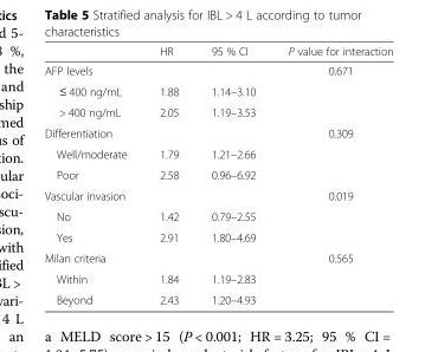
<table><thead><tr><td></td><td>HR</td><td>95 % CI</td><td>P value for interaction</td></tr></thead><tbody><tr><td>AFP levels</td><td></td><td></td><td>0.671</td></tr><tr><td>≤ 400 ng/mL</td><td>1.88</td><td>1.14–3.10</td><td></td></tr><tr><td>&gt; 400 ng/mL</td><td>2.05</td><td>1.19–3.53</td><td></td></tr><tr><td>Differentiation</td><td></td><td></td><td>0.309</td></tr><tr><td>Well/moderate</td><td>1.79</td><td>1.21–2.66</td><td></td></tr><tr><td>Poor</td><td>2.58</td><td>0.96–6.92</td><td></td></tr><tr><td>Vascular invasion</td><td></td><td></td><td>0.019</td></tr><tr><td>No</td><td>1.42</td><td>0.79–2.55</td><td></td></tr><tr><td>Yes</td><td>2.91</td><td>1.80–4.69</td><td></td></tr><tr><td>Milan criteria</td><td></td><td></td><td>0.565</td></tr><tr><td>Within</td><td>1.84</td><td>1.19–2.83</td><td></td></tr><tr><td>Beyond</td><td>2.43</td><td>1.20–4.93</td><td></td></tr></tbody></table>